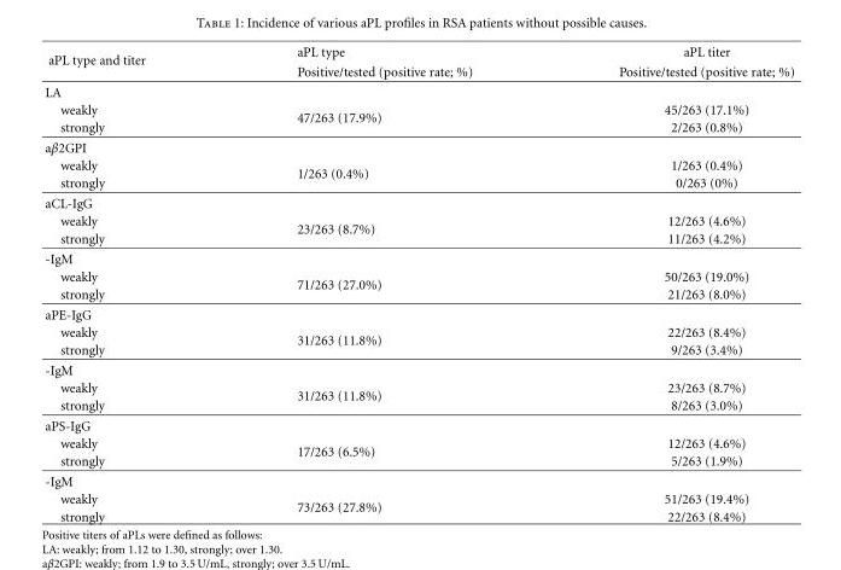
<table><thead><tr><td rowspan="2">aPL type and titer</td><td rowspan="2">aPL type Positive/tested (positive rate; %)</td><td rowspan="2">aPL titer Positive/tested (positive rate; %)</td></tr><tr></tr></thead><tbody><tr><td colspan="3">LA</td></tr><tr><td>weakly</td><td rowspan="2">47/263 (17.9%)</td><td>45/263 (17.1%)</td></tr><tr><td>strongly</td><td>2/263 (0.8%)</td></tr><tr><td colspan="3">aβ2GPI</td></tr><tr><td>weakly</td><td rowspan="2">1/263 (0.4%)</td><td>1/263 (0.4%)</td></tr><tr><td>strongly</td><td>0/263 (0%)</td></tr><tr><td colspan="3">aCL-IgG</td></tr><tr><td>weakly</td><td rowspan="2">23/263 (8.7%)</td><td>12/263 (4.6%)</td></tr><tr><td>strongly</td><td>11/263 (4.2%)</td></tr><tr><td colspan="3">-IgM</td></tr><tr><td>weakly</td><td rowspan="2">71/263 (27.0%)</td><td>50/263 (19.0%)</td></tr><tr><td>strongly</td><td>21/263 (8.0%)</td></tr><tr><td colspan="3">aPE-IgG</td></tr><tr><td>weakly</td><td rowspan="2">31/263 (11.8%)</td><td>22/263 (8.4%)</td></tr><tr><td>strongly</td><td>9/263 (3.4%)</td></tr><tr><td colspan="3">-IgM</td></tr><tr><td>weakly</td><td rowspan="2">31/263 (11.8%)</td><td>23/263 (8.7%)</td></tr><tr><td>strongly</td><td>8/263 (3.0%)</td></tr><tr><td colspan="3">aPS-IgG</td></tr><tr><td>weakly</td><td rowspan="2">17/263 (6.5%)</td><td>12/263 (4.6%)</td></tr><tr><td>strongly</td><td>5/263 (1.9%)</td></tr><tr><td colspan="3">-IgM</td></tr><tr><td>weakly</td><td rowspan="2">73/263 (27.8%)</td><td>51/263 (19.4%)</td></tr><tr><td>strongly</td><td>22/263 (8.4%)</td></tr></tbody></table>